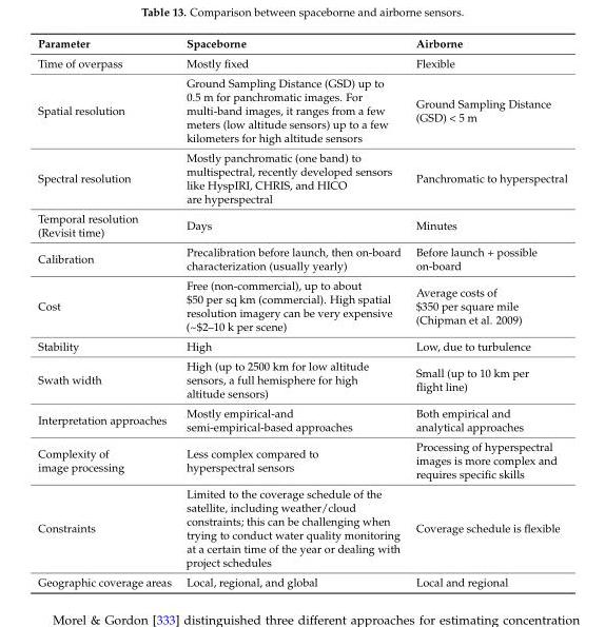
<table><thead><tr><td>Parameter</td><td>Spaceborne</td><td>Airborne</td></tr></thead><tbody><tr><td>Time of overpass</td><td>Mostly fixed</td><td>Flexible</td></tr><tr><td>Spatial resolution</td><td>Ground Sampling Distance (GSD) up to 0.5 m for panchromatic images. For multi-band images, it ranges from a few meters (low altitude sensors) up to a few kilometers for high altitude sensors</td><td>Ground Sampling Distance (GSD) &lt; 5 m</td></tr><tr><td>Spectral resolution</td><td>Mostly panchromatic (one band) to multispectral, recently developed sensors like HyspIRI, CHRIS, and HICO are hyperspectral</td><td>Panchromatic to hyperspectral</td></tr><tr><td>Temporal resolution (Revisit time)</td><td>Days</td><td>Minutes</td></tr><tr><td>Calibration</td><td>Precalibration before launch, then on-board characterization (usually yearly)</td><td>Before launch + possible on-board</td></tr><tr><td>Cost</td><td>Free (non-commercial), up to about $50 per sq km (commercial). High spatial resolution imagery can be very expensive (~$2–10 k per scene)</td><td>Average costs of $350 per square mile (Chipman et al. 2009)</td></tr><tr><td>Stability</td><td>High</td><td>Low, due to turbulence</td></tr><tr><td>Swath width</td><td>High (up to 2500 km for low altitude sensors, a full hemisphere for high altitude sensors)</td><td>Small (up to 10 km per flight line)</td></tr><tr><td>Interpretation approaches</td><td>Mostly empirical-and semi-empirical-based approaches</td><td>Both empirical and analytical approaches</td></tr><tr><td>Complexity of image processing</td><td>Less complex compared to hyperspectral sensors</td><td>Processing of hyperspectral images is more complex and requires specific skills</td></tr><tr><td>Constraints</td><td>Limited to the coverage schedule of the satellite, including weather/cloud constraints; this can be challenging when trying to conduct water quality monitoring at a certain time of the year or dealing with project schedules</td><td>Coverage schedule is flexible</td></tr><tr><td>Geographic coverage areas</td><td>Local, regional, and global</td><td>Local and regional</td></tr></tbody></table>